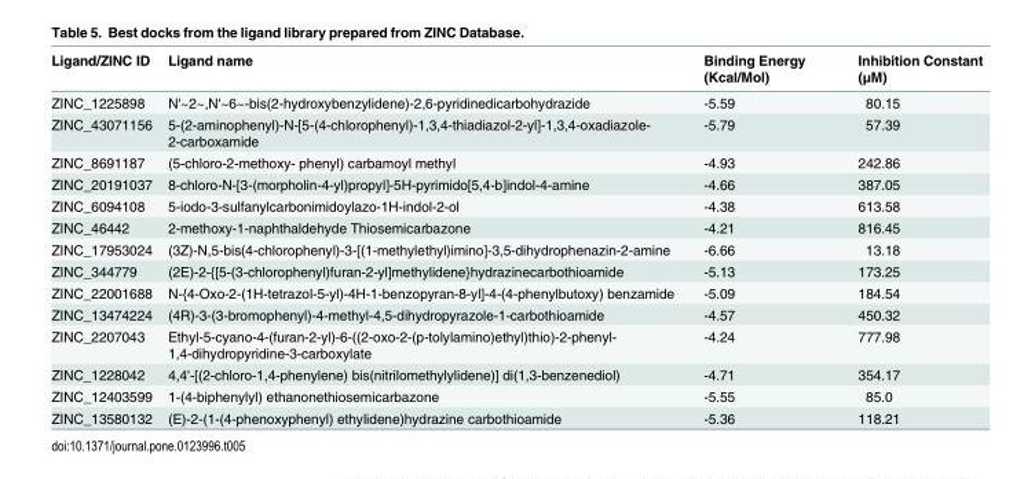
<table><thead><tr><td>Ligand/ZINC ID</td><td>Ligand name</td><td>Binding Energy (Kcal/Mol)</td><td>Inhibition Constant (μM)</td></tr></thead><tbody><tr><td>ZINC_1225898</td><td>N&#x27;~2~,N&#x27;~6~-bis(2-hydroxybenzylidene)-2,6-pyridinedicarbohydrazide</td><td>-5.59</td><td>80.15</td></tr><tr><td>ZINC_43071156</td><td>5-(2-aminophenyl)-N-[5-(4-chlorophenyl)-1,3,4-thiadiazol-2-yl]-1,3,4-oxadiazole- 2-carboxamide</td><td>-5.79</td><td>57.39</td></tr><tr><td>ZINC_8691187</td><td>(5-chloro-2-methoxy- phenyl) carbamoyl methyl</td><td>-4.93</td><td>242.86</td></tr><tr><td>ZINC_20191037</td><td>8-chloro-N-[3-(morpholin-4-yl)propyl]-5H-pyrimido[5,4-b]indol-4-amine</td><td>-4.66</td><td>387.05</td></tr><tr><td>ZINC_6094108</td><td>5-iodo-3-sulfanylcarbonimidoylazo-1H-indol-2-ol</td><td>-4.38</td><td>613.58</td></tr><tr><td>ZINC_46442</td><td>2-methoxy-1-naphthaldehyde Thiosemicarbazone</td><td>-4.21</td><td>816.45</td></tr><tr><td>ZINC_17953024</td><td>(3Z)-N,5-bis(4-chlorophenyl)-3-[(1-methylethyl)imino]-3,5-dihydrophenazin-2-amine</td><td>-6.66</td><td>13.18</td></tr><tr><td>ZINC_344779</td><td>(2E)-2-{[5-(3-chlorophenyl)furan-2-yl]methylidene}hydrazinecarbothioamide</td><td>-5.13</td><td>173.25</td></tr><tr><td>ZINC_22001688</td><td>N-{4-Oxo-2-(1H-tetrazol-5-yl)-4H-1-benzopyran-8-yl]-4-(4-phenylbutoxy) benzamide</td><td>-5.09</td><td>184.54</td></tr><tr><td>ZINC_13474224</td><td>(4R)-3-(3-bromophenyl)-4-methyl-4,5-dihydropyrazole-1-carbothioamide</td><td>-4.57</td><td>450.32</td></tr><tr><td>ZINC_2207043</td><td>Ethyl-5-cyano-4-(furan-2-yl)-6-((2-oxo-2-(p-tolylamino)ethyl)thio)-2-phenyl- 1,4-dihydropyridine-3-carboxylate</td><td>-4.24</td><td>777.98</td></tr><tr><td>ZINC_1228042</td><td>4,4&#x27;-[(2-chloro-1,4-phenylene) bis(nitrilomethylylidene)] di(1,3-benzenediol)</td><td>-4.71</td><td>354.17</td></tr><tr><td>ZINC_12403599</td><td>1-(4-biphenylyl) ethanonethiosemicarbazone</td><td>-5.55</td><td>85.0</td></tr><tr><td>ZINC_13580132</td><td>(E)-2-(1-(4-phenoxyphenyl) ethylidene)hydrazine carbothioamide</td><td>-5.36</td><td>118.21</td></tr></tbody></table>